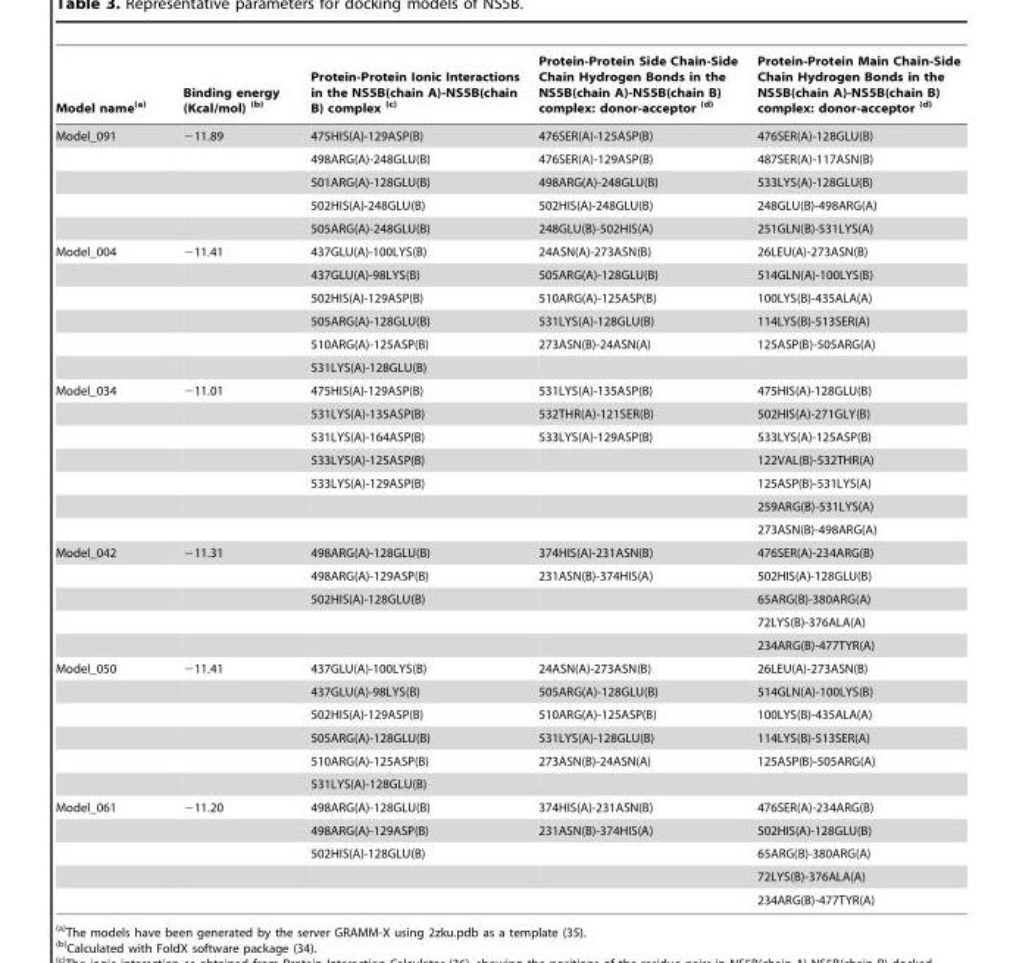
<table><thead><tr><td>Model name(a)</td><td>Binding energy (Kcal/mol) (b)</td><td>Protein-Protein Ionic Interactions in the NS5B(chain A)-NS5B(chain B) complex (c)</td><td>Protein-Protein Side Chain-Side Chain Hydrogen Bonds in the NS5B(chain A)-NS5B(chain B) complex: donor-acceptor (d)</td><td>Protein-Protein Main Chain-Side Chain Hydrogen Bonds in the NS5B(chain A)-NS5B(chain B) complex: donor-acceptor (d)</td></tr></thead><tbody><tr><td rowspan="5">Model_091</td><td>−11.89</td><td>475HIS(A)-129ASP(B)</td><td>476SER(A)-125ASP(B)</td><td>476SER(A)-128GLU(B)</td></tr><tr><td></td><td>498ARG(A)-248GLU(B)</td><td>476SER(A)-129ASP(B)</td><td>487SER(A)-117ASN(B)</td></tr><tr><td></td><td>501ARG(A)-128GLU(B)</td><td>498ARG(A)-248GLU(B)</td><td>533LYS(A)-128GLU(B)</td></tr><tr><td></td><td>502HIS(A)-248GLU(B)</td><td>502HIS(A)-248GLU(B)</td><td>248GLU(B)-498ARG(A)</td></tr><tr><td></td><td>505ARG(A)-248GLU(B)</td><td>248GLU(B)-502HIS(A)</td><td>251GLN(B)-531LYS(A)</td></tr><tr><td rowspan="6">Model_004</td><td>−11.41</td><td>437GLU(A)-100LYS(B)</td><td>24ASN(A)-273ASN(B)</td><td>26LEU(A)-273ASN(B)</td></tr><tr><td></td><td>437GLU(A)-98LYS(B)</td><td>505ARG(A)-128GLU(B)</td><td>514GLN(A)-100LYS(B)</td></tr><tr><td></td><td>502HIS(A)-129ASP(B)</td><td>510ARG(A)-125ASP(B)</td><td>100LYS(B)-435ALA(A)</td></tr><tr><td></td><td>505ARG(A)-128GLU(B)</td><td>531LYS(A)-128GLU(B)</td><td>114LYS(B)-513SER(A)</td></tr><tr><td></td><td>510ARG(A)-125ASP(B)</td><td>273ASN(B)-24ASN(A)</td><td>125ASP(B)-505ARG(A)</td></tr><tr><td></td><td>531LYS(A)-128GLU(B)</td><td></td><td></td></tr><tr><td rowspan="7">Model_034</td><td>−11.01</td><td>475HIS(A)-129ASP(B)</td><td>531LYS(A)-135ASP(B)</td><td>475HIS(A)-128GLU(B)</td></tr><tr><td></td><td>531LYS(A)-135ASP(B)</td><td>532THR(A)-121SER(B)</td><td>502HIS(A)-271GLY(B)</td></tr><tr><td></td><td>531LYS(A)-164ASP(B)</td><td>533LYS(A)-129ASP(B)</td><td>533LYS(A)-125ASP(B)</td></tr><tr><td></td><td>533LYS(A)-125ASP(B)</td><td></td><td>122VAL(B)-532THR(A)</td></tr><tr><td></td><td>533LYS(A)-129ASP(B)</td><td></td><td>125ASP(B)-531LYS(A)</td></tr><tr><td></td><td></td><td></td><td>259ARG(B)-531LYS(A)</td></tr><tr><td></td><td></td><td></td><td>273ASN(B)-498ARG(A)</td></tr><tr><td rowspan="5">Model_042</td><td>−11.31</td><td>498ARG(A)-128GLU(B)</td><td>374HIS(A)-231ASN(B)</td><td>476SER(A)-234ARG(B)</td></tr><tr><td></td><td>498ARG(A)-129ASP(B)</td><td>231ASN(B)-374HIS(A)</td><td>502HIS(A)-128GLU(B)</td></tr><tr><td></td><td>502HIS(A)-128GLU(B)</td><td></td><td>65ARG(B)-380ARG(A)</td></tr><tr><td></td><td></td><td></td><td>72LYS(B)-376ALA(A)</td></tr><tr><td></td><td></td><td></td><td>234ARG(B)-477TYR(A)</td></tr><tr><td rowspan="6">Model_050</td><td>−11.41</td><td>437GLU(A)-100LYS(B)</td><td>24ASN(A)-273ASN(B)</td><td>26LEU(A)-273ASN(B)</td></tr><tr><td></td><td>437GLU(A)-98LYS(B)</td><td>505ARG(A)-128GLU(B)</td><td>514GLN(A)-100LYS(B)</td></tr><tr><td></td><td>502HIS(A)-129ASP(B)</td><td>510ARG(A)-125ASP(B)</td><td>100LYS(B)-435ALA(A)</td></tr><tr><td></td><td>505ARG(A)-128GLU(B)</td><td>531LYS(A)-128GLU(B)</td><td>114LYS(B)-513SER(A)</td></tr><tr><td></td><td>510ARG(A)-125ASP(B)</td><td>273ASN(B)-24ASN(A)</td><td>125ASP(B)-505ARG(A)</td></tr><tr><td></td><td>531LYS(A)-128GLU(B)</td><td></td><td></td></tr><tr><td rowspan="5">Model_061</td><td>−11.20</td><td>498ARG(A)-128GLU(B)</td><td>374HIS(A)-231ASN(B)</td><td>476SER(A)-234ARG(B)</td></tr><tr><td></td><td>498ARG(A)-129ASP(B)</td><td>231ASN(B)-374HIS(A)</td><td>502HIS(A)-128GLU(B)</td></tr><tr><td></td><td>502HIS(A)-128GLU(B)</td><td></td><td>65ARG(B)-380ARG(A)</td></tr><tr><td></td><td></td><td></td><td>72LYS(B)-376ALA(A)</td></tr><tr><td></td><td></td><td></td><td>234ARG(B)-477TYR(A)</td></tr></tbody></table>